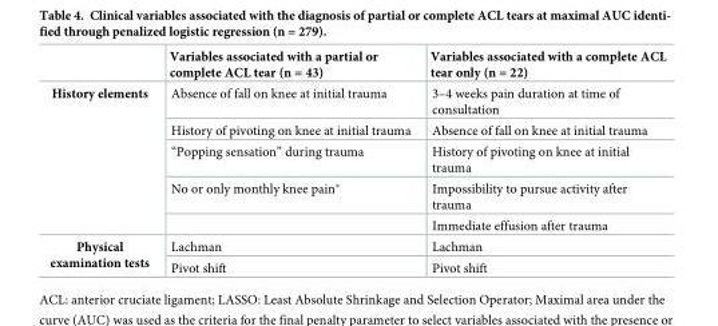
<table><thead><tr><td></td><td>Variables associated with a partial or complete ACL tear (n = 43)</td><td>Variables associated with a complete ACL tear only (n = 22)</td></tr></thead><tbody><tr><td rowspan="5">History elements</td><td>Absence of fall on knee at initial trauma</td><td>3–4 weeks pain duration at time of consultation</td></tr><tr><td>History of pivoting on knee at initial trauma</td><td>Absence of fall on knee at initial trauma</td></tr><tr><td>“Popping sensation” during trauma</td><td>History of pivoting on knee at initial trauma</td></tr><tr><td>No or only monthly knee pain*</td><td>Impossibility to pursue activity after trauma</td></tr><tr><td></td><td>Immediate effusion after trauma</td></tr><tr><td rowspan="2">Physical examination tests</td><td>Lachman</td><td>Lachman</td></tr><tr><td>Pivot shift</td><td>Pivot shift</td></tr></tbody></table>